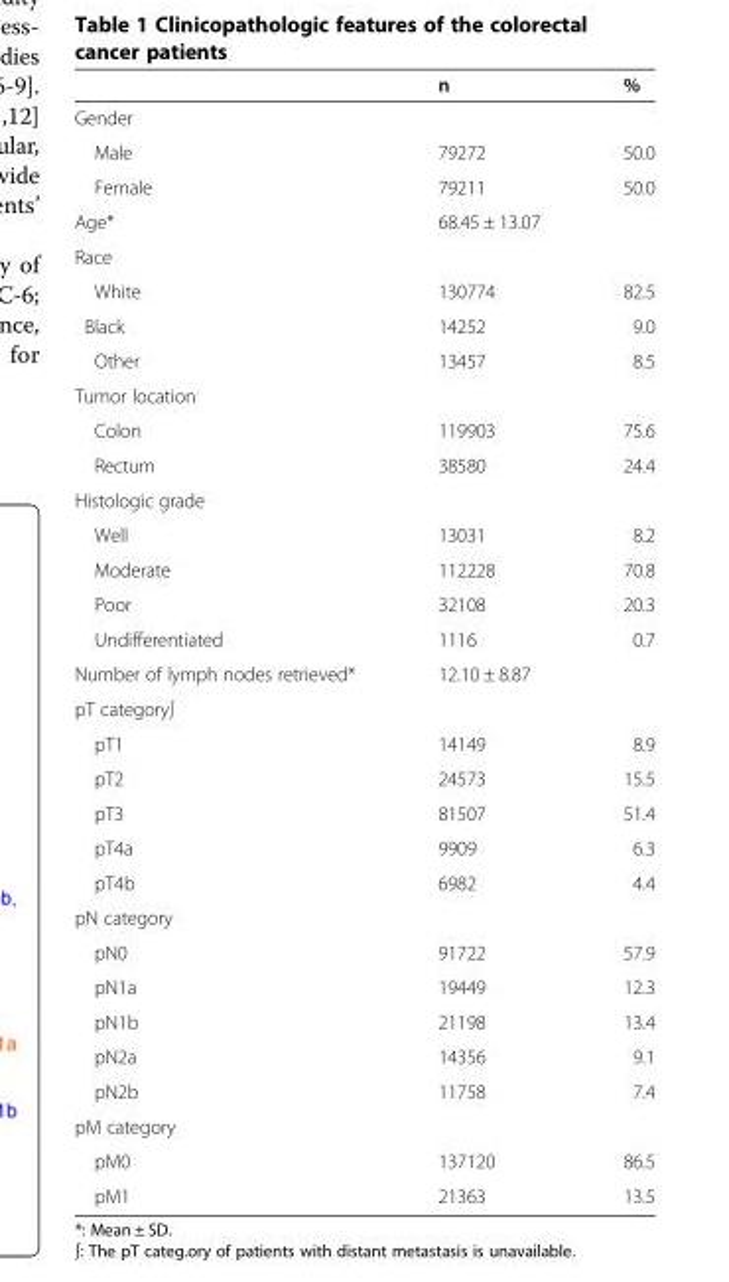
<table><thead><tr><td></td><td>n</td><td>%</td></tr></thead><tbody><tr><td colspan="3">Gender</td></tr><tr><td>Male</td><td>79272</td><td>50.0</td></tr><tr><td>Female</td><td>79211</td><td>50.0</td></tr><tr><td>Age*</td><td>68.45 ± 13.07</td><td></td></tr><tr><td colspan="3">Race</td></tr><tr><td>White</td><td>130774</td><td>82.5</td></tr><tr><td>Black</td><td>14252</td><td>9.0</td></tr><tr><td>Other</td><td>13457</td><td>8.5</td></tr><tr><td colspan="3">Tumor location</td></tr><tr><td>Colon</td><td>119903</td><td>75.6</td></tr><tr><td>Rectum</td><td>38580</td><td>24.4</td></tr><tr><td colspan="3">Histologic grade</td></tr><tr><td>Well</td><td>13031</td><td>8.2</td></tr><tr><td>Moderate</td><td>112228</td><td>70.8</td></tr><tr><td>Poor</td><td>32108</td><td>20.3</td></tr><tr><td>Undifferentiated</td><td>1116</td><td>0.7</td></tr><tr><td>Number of lymph nodes retrieved*</td><td>12.10 ± 8.87</td><td></td></tr><tr><td colspan="3">pT category∫</td></tr><tr><td>pT1</td><td>14149</td><td>8.9</td></tr><tr><td>pT2</td><td>24573</td><td>15.5</td></tr><tr><td>pT3</td><td>81507</td><td>51.4</td></tr><tr><td>pT4a</td><td>9909</td><td>6.3</td></tr><tr><td>pT4b</td><td>6982</td><td>4.4</td></tr><tr><td colspan="3">pN category</td></tr><tr><td>pN0</td><td>91722</td><td>57.9</td></tr><tr><td>pN1a</td><td>19449</td><td>12.3</td></tr><tr><td>pN1b</td><td>21198</td><td>13.4</td></tr><tr><td>pN2a</td><td>14356</td><td>9.1</td></tr><tr><td>pN2b</td><td>11758</td><td>7.4</td></tr><tr><td colspan="3">pM category</td></tr><tr><td>pM0</td><td>137120</td><td>86.5</td></tr><tr><td>pM1</td><td>21363</td><td>13.5</td></tr></tbody></table>